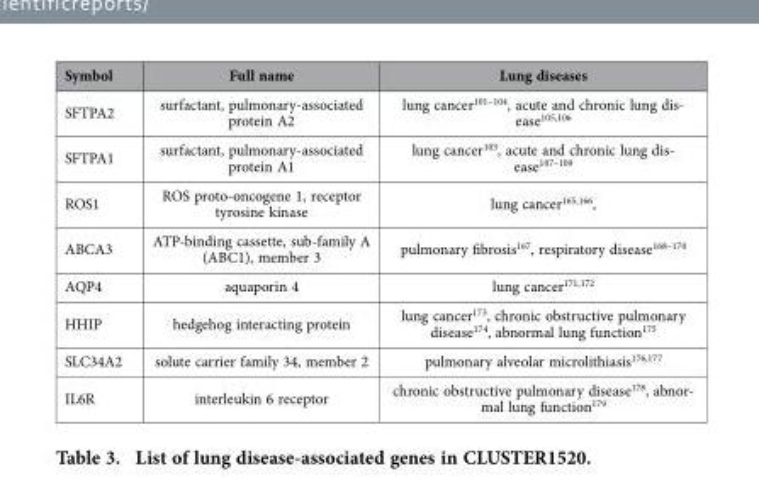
<table><thead><tr><td>Symbol</td><td>Full name</td><td>Lung diseases</td></tr></thead><tbody><tr><td>SFTPA2</td><td>surfactant, pulmonary-associated protein A2</td><td>lung cancer101–104, acute and chronic lung dis- ease105,106</td></tr><tr><td>SFTPA1</td><td>surfactant, pulmonary-associated protein A1</td><td>lung cancer103, acute and chronic lung dis- ease107–109</td></tr><tr><td>ROS1</td><td>ROS proto-oncogene 1, receptor tyrosine kinase</td><td>lung cancer<sup>165</sup>,<sup>166</sup>,</td></tr><tr><td>ABCA3</td><td>ATP-binding cassette, sub-family A (ABC1), member 3</td><td>pulmonary fibrosis167, respiratory disease168–170</td></tr><tr><td>AQP4</td><td>aquaporin 4</td><td>lung cancer<sup>171</sup>,<sup>172</sup></td></tr><tr><td>HHIP</td><td>hedgehog interacting protein</td><td>lung cancer<sup>173</sup>, chronic obstructive pulmonary disease<sup>174</sup>, abnormal lung function<sup>175</sup></td></tr><tr><td>SLC34A2</td><td>solute carrier family 34, member 2</td><td>pulmonary alveolar microlithiasis<sup>176</sup>,<sup>177</sup></td></tr><tr><td>IL6R</td><td>interleukin 6 receptor</td><td>chronic obstructive pulmonary disease178, abnor- mal lung function179</td></tr></tbody></table>